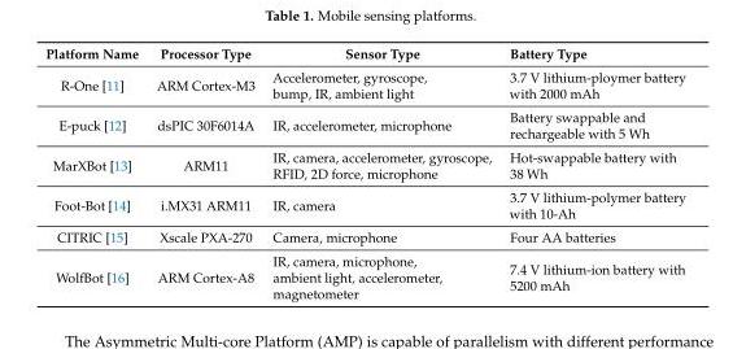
<table><thead><tr><td>Platform Name</td><td>Processor Type</td><td>Sensor Type</td><td>Battery Type</td></tr></thead><tbody><tr><td>R-One [11]</td><td>ARM Cortex-M3</td><td>Accelerometer, gyroscope, bump, IR, ambient light</td><td>3.7 V lithium-ploymer battery with 2000 mAh</td></tr><tr><td>E-puck [12]</td><td>dsPIC 30F6014A</td><td>IR, accelerometer, microphone</td><td>Battery swappable and rechargeable with 5 Wh</td></tr><tr><td>MarXBot [13]</td><td>ARM11</td><td>IR, camera, accelerometer, gyroscope, RFID, 2D force, microphone</td><td>Hot-swappable battery with 38 Wh</td></tr><tr><td>Foot-Bot [14]</td><td>i.MX31 ARM11</td><td>IR, camera</td><td>3.7 V lithium-polymer battery with 10-Ah</td></tr><tr><td>CITRIC [15]</td><td>Xscale PXA-270</td><td>Camera, microphone</td><td>Four AA batteries</td></tr><tr><td>WolfBot [16]</td><td>ARM Cortex-A8</td><td>IR, camera, microphone, ambient light, accelerometer, magnetometer</td><td>7.4 V lithium-ion battery with 5200 mAh</td></tr></tbody></table>